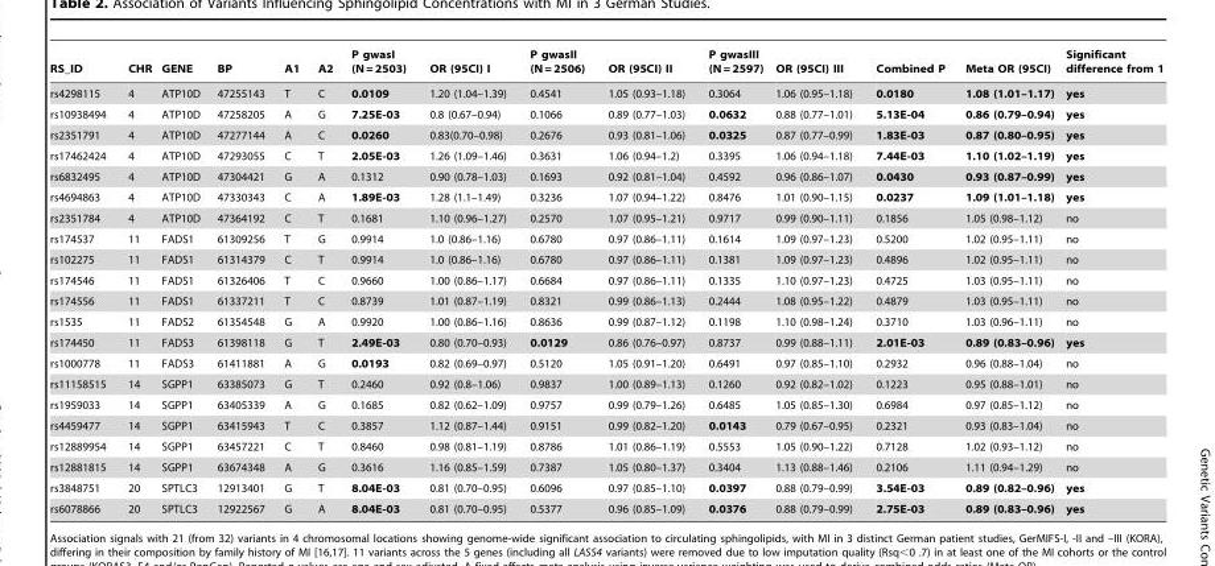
<table><thead><tr><td>RS_ID</td><td>CHR</td><td>GENE</td><td>BP</td><td>A1</td><td>A2</td><td>P gwasI (N = 2503)</td><td>OR (95CI) I</td><td>P gwasII (N = 2506)</td><td>OR (95CI) II</td><td>P gwasIII (N = 2597)</td><td>OR (95CI) III</td><td>Combined P</td><td>Meta OR (95CI)</td><td>Significant difference from 1</td></tr></thead><tbody><tr><td>rs4298115</td><td>4</td><td>ATP10D</td><td>47255143</td><td>T</td><td>C</td><td>0.0109</td><td>1.20 (1.04–1.39)</td><td>0.4541</td><td>1.05 (0.93–1.18)</td><td>0.3064</td><td>1.06 (0.95–1.18)</td><td>0.0180</td><td>1.08 (1.01–1.17)</td><td>yes</td></tr><tr><td>rs10938494</td><td>4</td><td>ATP10D</td><td>47258205</td><td>A</td><td>G</td><td>7.25E-03</td><td>0.8 (0.67–0.94)</td><td>0.1066</td><td>0.89 (0.77–1.03)</td><td>0.0632</td><td>0.88 (0.77–1.01)</td><td>5.13E-04</td><td>0.86 (0.79–0.94)</td><td>yes</td></tr><tr><td>rs2351791</td><td>4</td><td>ATP10D</td><td>47277144</td><td>A</td><td>C</td><td>0.0260</td><td>0.83(0.70–0.98)</td><td>0.2676</td><td>0.93 (0.81–1.06)</td><td>0.0325</td><td>0.87 (0.77–0.99)</td><td>1.83E-03</td><td>0.87 (0.80–0.95)</td><td>yes</td></tr><tr><td>rs17462424</td><td>4</td><td>ATP10D</td><td>47293055</td><td>C</td><td>T</td><td>2.05E-03</td><td>1.26 (1.09–1.46)</td><td>0.3631</td><td>1.06 (0.94–1.2)</td><td>0.3395</td><td>1.06 (0.94–1.18)</td><td>7.44E-03</td><td>1.10 (1.02–1.19)</td><td>yes</td></tr><tr><td>rs6832495</td><td>4</td><td>ATP10D</td><td>47304421</td><td>G</td><td>A</td><td>0.1312</td><td>0.90 (0.78–1.03)</td><td>0.1693</td><td>0.92 (0.81–1.04)</td><td>0.4592</td><td>0.96 (0.86–1.07)</td><td>0.0430</td><td>0.93 (0.87–0.99)</td><td>yes</td></tr><tr><td>rs4694863</td><td>4</td><td>ATP10D</td><td>47330343</td><td>C</td><td>A</td><td>1.89E-03</td><td>1.28 (1.1–1.49)</td><td>0.3236</td><td>1.07 (0.94–1.22)</td><td>0.8476</td><td>1.01 (0.90–1.15)</td><td>0.0237</td><td>1.09 (1.01–1.18)</td><td>yes</td></tr><tr><td>rs2351784</td><td>4</td><td>ATP10D</td><td>47364192</td><td>C</td><td>T</td><td>0.1681</td><td>1.10 (0.96–1.27)</td><td>0.2570</td><td>1.07 (0.95–1.21)</td><td>0.9717</td><td>0.99 (0.90–1.11)</td><td>0.1856</td><td>1.05 (0.98–1.12)</td><td>no</td></tr><tr><td>rs174537</td><td>11</td><td>FADS1</td><td>61309256</td><td>T</td><td>G</td><td>0.9914</td><td>1.0 (0.86–1.16)</td><td>0.6780</td><td>0.97 (0.86–1.11)</td><td>0.1614</td><td>1.09 (0.97–1.23)</td><td>0.5200</td><td>1.02 (0.95–1.11)</td><td>no</td></tr><tr><td>rs102275</td><td>11</td><td>FADS1</td><td>61314379</td><td>C</td><td>T</td><td>0.9914</td><td>1.0 (0.86–1.16)</td><td>0.6780</td><td>0.97 (0.86–1.11)</td><td>0.1381</td><td>1.09 (0.97–1.23)</td><td>0.4896</td><td>1.02 (0.95–1.11)</td><td>no</td></tr><tr><td>rs174546</td><td>11</td><td>FADS1</td><td>61326406</td><td>T</td><td>C</td><td>0.9660</td><td>1.00 (0.86–1.17)</td><td>0.6684</td><td>0.97 (0.86–1.11)</td><td>0.1335</td><td>1.10 (0.97–1.23)</td><td>0.4725</td><td>1.03 (0.95–1.11)</td><td>no</td></tr><tr><td>rs174556</td><td>11</td><td>FADS1</td><td>61337211</td><td>T</td><td>C</td><td>0.8739</td><td>1.01 (0.87–1.19)</td><td>0.8321</td><td>0.99 (0.86–1.13)</td><td>0.2444</td><td>1.08 (0.95–1.22)</td><td>0.4879</td><td>1.03 (0.95–1.11)</td><td>no</td></tr><tr><td>rs1535</td><td>11</td><td>FADS2</td><td>61354548</td><td>G</td><td>A</td><td>0.9920</td><td>1.00 (0.86–1.16)</td><td>0.8636</td><td>0.99 (0.87–1.12)</td><td>0.1198</td><td>1.10 (0.98–1.24)</td><td>0.3710</td><td>1.03 (0.96–1.11)</td><td>no</td></tr><tr><td>rs174450</td><td>11</td><td>FADS3</td><td>61398118</td><td>G</td><td>T</td><td>2.49E-03</td><td>0.80 (0.70–0.93)</td><td>0.0129</td><td>0.86 (0.76–0.97)</td><td>0.8737</td><td>0.99 (0.88–1.11)</td><td>2.01E-03</td><td>0.89 (0.83–0.96)</td><td>yes</td></tr><tr><td>rs1000778</td><td>11</td><td>FADS3</td><td>61411881</td><td>A</td><td>G</td><td>0.0193</td><td>0.82 (0.69–0.97)</td><td>0.5120</td><td>1.05 (0.91–1.20)</td><td>0.6491</td><td>0.97 (0.85–1.10)</td><td>0.2932</td><td>0.96 (0.88–1.04)</td><td>no</td></tr><tr><td>rs11158515</td><td>14</td><td>SGPP1</td><td>63385073</td><td>G</td><td>T</td><td>0.2460</td><td>0.92 (0.8–1.06)</td><td>0.9837</td><td>1.00 (0.89–1.13)</td><td>0.1260</td><td>0.92 (0.82–1.02)</td><td>0.1223</td><td>0.95 (0.88–1.01)</td><td>no</td></tr><tr><td>rs1959033</td><td>14</td><td>SGPP1</td><td>63405339</td><td>A</td><td>G</td><td>0.1685</td><td>0.82 (0.62–1.09)</td><td>0.9757</td><td>0.99 (0.79–1.26)</td><td>0.6485</td><td>1.05 (0.85–1.30)</td><td>0.6984</td><td>0.97 (0.85–1.12)</td><td>no</td></tr><tr><td>rs4459477</td><td>14</td><td>SGPP1</td><td>63415943</td><td>T</td><td>C</td><td>0.3857</td><td>1.12 (0.87–1.44)</td><td>0.9151</td><td>0.99 (0.82–1.20)</td><td>0.0143</td><td>0.79 (0.67–0.95)</td><td>0.2321</td><td>0.93 (0.83–1.04)</td><td>no</td></tr><tr><td>rs12889954</td><td>14</td><td>SGPP1</td><td>63457221</td><td>C</td><td>T</td><td>0.8460</td><td>0.98 (0.81–1.19)</td><td>0.8786</td><td>1.01 (0.86–1.19)</td><td>0.5553</td><td>1.05 (0.90–1.22)</td><td>0.7128</td><td>1.02 (0.93–1.12)</td><td>no</td></tr><tr><td>rs12881815</td><td>14</td><td>SGPP1</td><td>63674348</td><td>A</td><td>G</td><td>0.3616</td><td>1.16 (0.85–1.59)</td><td>0.7387</td><td>1.05 (0.80–1.37)</td><td>0.3404</td><td>1.13 (0.88–1.46)</td><td>0.2106</td><td>1.11 (0.94–1.29)</td><td>no</td></tr><tr><td>rs3848751</td><td>20</td><td>SPTLC3</td><td>12913401</td><td>G</td><td>T</td><td>8.04E-03</td><td>0.81 (0.70–0.95)</td><td>0.6096</td><td>0.97 (0.85–1.10)</td><td>0.0397</td><td>0.88 (0.79–0.99)</td><td>3.54E-03</td><td>0.89 (0.82–0.96)</td><td>yes</td></tr><tr><td>rs6078866</td><td>20</td><td>SPTLC3</td><td>12922567</td><td>G</td><td>A</td><td>8.04E-03</td><td>0.81 (0.70–0.95)</td><td>0.5377</td><td>0.96 (0.85–1.09)</td><td>0.0376</td><td>0.88 (0.79–0.99)</td><td>2.75E-03</td><td>0.89 (0.83–0.96)</td><td>yes</td></tr></tbody></table>